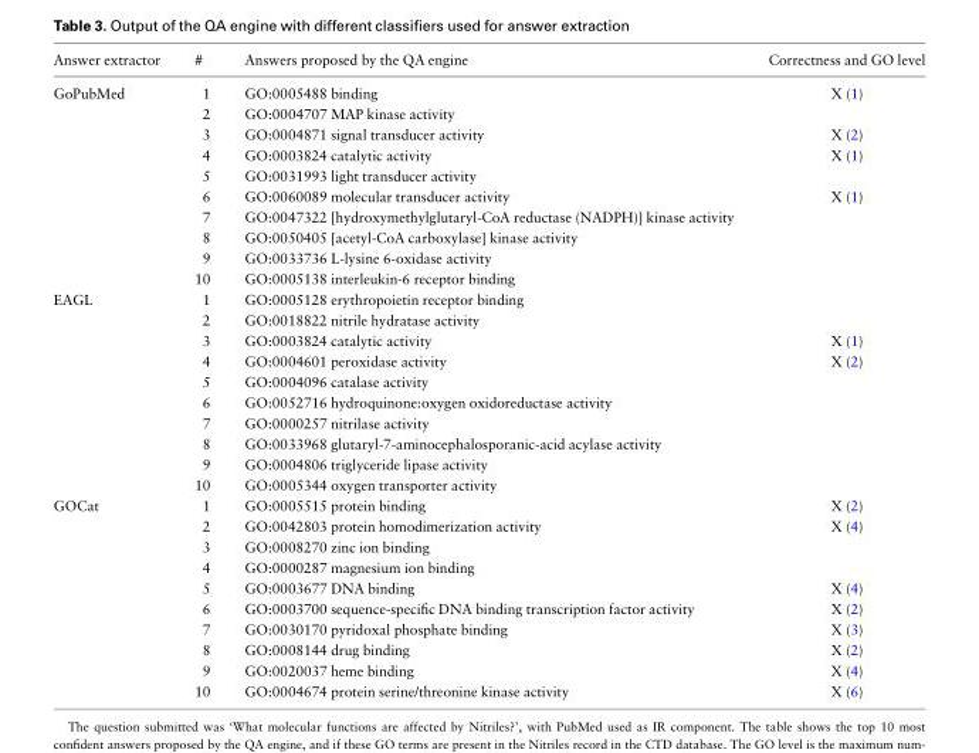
<table><thead><tr><td>Answer extractor</td><td>#</td><td>Answers proposed by the QA engine</td><td>Correctness and GO level</td></tr></thead><tbody><tr><td rowspan="10">GoPubMed</td><td>1</td><td>GO:0005488 binding</td><td>X (1)</td></tr><tr><td>2</td><td>GO:0004707 MAP kinase activity</td><td></td></tr><tr><td>3</td><td>GO:0004871 signal transducer activity</td><td>X (2)</td></tr><tr><td>4</td><td>GO:0003824 catalytic activity</td><td>X (1)</td></tr><tr><td>5</td><td>GO:0031993 light transducer activity</td><td></td></tr><tr><td>6</td><td>GO:0060089 molecular transducer activity</td><td>X (1)</td></tr><tr><td>7</td><td>GO:0047322 [hydroxymethylglutaryl-CoA reductase (NADPH)] kinase activity</td><td></td></tr><tr><td>8</td><td>GO:0050405 [acetyl-CoA carboxylase] kinase activity</td><td></td></tr><tr><td>9</td><td>GO:0033736 L-lysine 6-oxidase activity</td><td></td></tr><tr><td>10</td><td>GO:0005138 interleukin-6 receptor binding</td><td></td></tr><tr><td rowspan="10">EAGL</td><td>1</td><td>GO:0005128 erythropoietin receptor binding</td><td></td></tr><tr><td>2</td><td>GO:0018822 nitrile hydratase activity</td><td></td></tr><tr><td>3</td><td>GO:0003824 catalytic activity</td><td>X (1)</td></tr><tr><td>4</td><td>GO:0004601 peroxidase activity</td><td>X (2)</td></tr><tr><td>5</td><td>GO:0004096 catalase activity</td><td></td></tr><tr><td>6</td><td>GO:0052716 hydroquinone:oxygen oxidoreductase activity</td><td></td></tr><tr><td>7</td><td>GO:0000257 nitrilase activity</td><td></td></tr><tr><td>8</td><td>GO:0033968 glutaryl-7-aminocephalosporanic-acid acylase activity</td><td></td></tr><tr><td>9</td><td>GO:0004806 triglyceride lipase activity</td><td></td></tr><tr><td>10</td><td>GO:0005344 oxygen transporter activity</td><td></td></tr><tr><td rowspan="10">GOCat</td><td>1</td><td>GO:0005515 protein binding</td><td>X (2)</td></tr><tr><td>2</td><td>GO:0042803 protein homodimerization activity</td><td>X (4)</td></tr><tr><td>3</td><td>GO:0008270 zinc ion binding</td><td></td></tr><tr><td>4</td><td>GO:0000287 magnesium ion binding</td><td></td></tr><tr><td>5</td><td>GO:0003677 DNA binding</td><td>X (4)</td></tr><tr><td>6</td><td>GO:0003700 sequence-specific DNA binding transcription factor activity</td><td>X (2)</td></tr><tr><td>7</td><td>GO:0030170 pyridoxal phosphate binding</td><td>X (3)</td></tr><tr><td>8</td><td>GO:0008144 drug binding</td><td>X (2)</td></tr><tr><td>9</td><td>GO:0020037 heme binding</td><td>X (4)</td></tr><tr><td>10</td><td>GO:0004674 protein serine/threonine kinase activity</td><td>X (6)</td></tr></tbody></table>